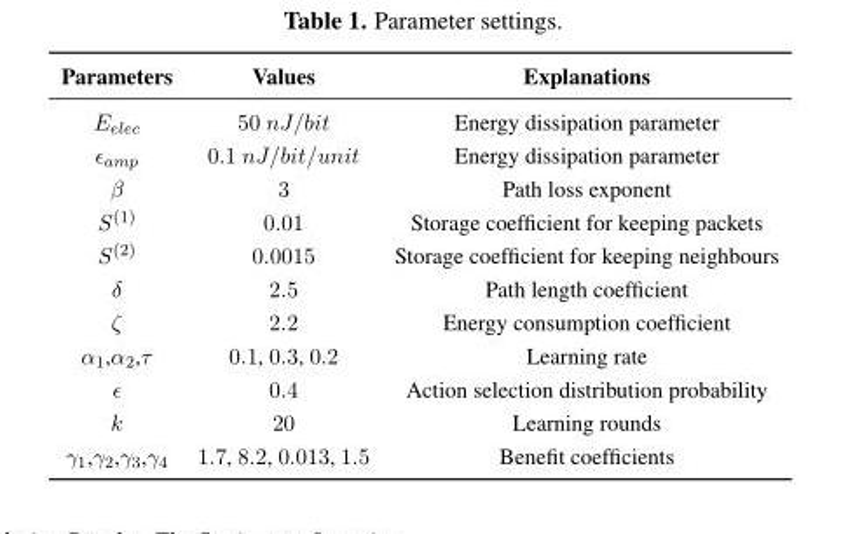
<table><thead><tr><td>Parameters</td><td>Values</td><td>Explanations</td></tr></thead><tbody><tr><td>E<sub>elec</sub></td><td>50 nJ/bit</td><td>Energy dissipation parameter</td></tr><tr><td>ϵ<sub>amp</sub></td><td>0.1 nJ/bit/unit</td><td>Energy dissipation parameter</td></tr><tr><td>β</td><td>3</td><td>Path loss exponent</td></tr><tr><td>S<sup>(1)</sup></td><td>0.01</td><td>Storage coefficient for keeping packets</td></tr><tr><td>S<sup>(2)</sup></td><td>0.0015</td><td>Storage coefficient for keeping neighbours</td></tr><tr><td>δ</td><td>2.5</td><td>Path length coefficient</td></tr><tr><td>ζ</td><td>2.2</td><td>Energy consumption coefficient</td></tr><tr><td>α<sub>1</sub>,α<sub>2</sub>,τ</td><td>0.1, 0.3, 0.2</td><td>Learning rate</td></tr><tr><td>ϵ</td><td>0.4</td><td>Action selection distribution probability</td></tr><tr><td>k</td><td>20</td><td>Learning rounds</td></tr><tr><td>γ<sub>1</sub>,γ<sub>2</sub>,γ<sub>3</sub>,γ<sub>4</sub></td><td>1.7, 8.2, 0.013, 1.5</td><td>Benefit coefficients</td></tr></tbody></table>